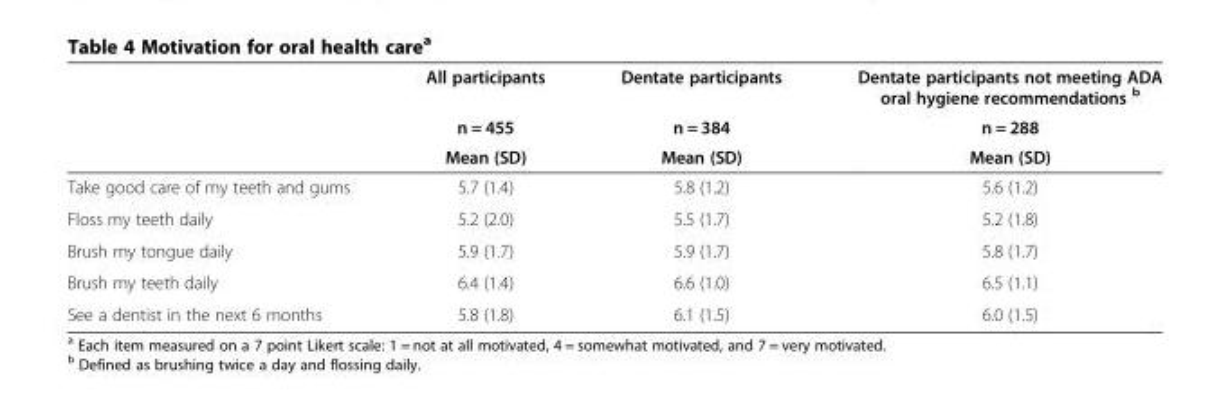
<table><thead><tr><td rowspan="3"></td><td rowspan="3">All participants n = 455 Mean (SD)</td><td rowspan="3">Dentate participants n = 384 Mean (SD)</td><td rowspan="3">Dentate participants not meeting ADA oral hygiene recommendations <sup>b</sup> n = 288 Mean (SD)</td></tr><tr></tr><tr></tr></thead><tbody><tr><td>Take good care of my teeth and gums</td><td>5.7 (1.4)</td><td>5.8 (1.2)</td><td>5.6 (1.2)</td></tr><tr><td>Floss my teeth daily</td><td>5.2 (2.0)</td><td>5.5 (1.7)</td><td>5.2 (1.8)</td></tr><tr><td>Brush my tongue daily</td><td>5.9 (1.7)</td><td>5.9 (1.7)</td><td>5.8 (1.7)</td></tr><tr><td>Brush my teeth daily</td><td>6.4 (1.4)</td><td>6.6 (1.0)</td><td>6.5 (1.1)</td></tr><tr><td>See a dentist in the next 6 months</td><td>5.8 (1.8)</td><td>6.1 (1.5)</td><td>6.0 (1.5)</td></tr></tbody></table>